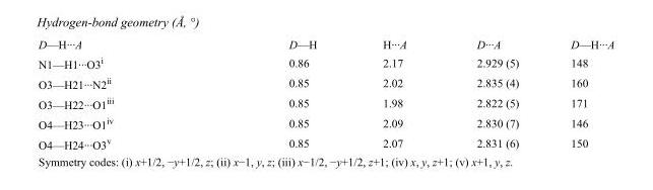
<table><tbody><tr><td>D—H···A</td><td>D—H</td><td>H···A</td><td>D···A</td><td>D—H···A</td></tr><tr><td>N1—H1···O3<sup>i</sup></td><td>0.86</td><td>2.17</td><td>2.929 (5)</td><td>148</td></tr><tr><td>O3—H21···N2<sup>ii</sup></td><td>0.85</td><td>2.02</td><td>2.835 (4)</td><td>160</td></tr><tr><td>O3—H22···O1<sup>iii</sup></td><td>0.85</td><td>1.98</td><td>2.822 (5)</td><td>171</td></tr><tr><td>O4—H23···O1<sup>iv</sup></td><td>0.85</td><td>2.09</td><td>2.830 (7)</td><td>146</td></tr><tr><td>O4—H24···O3<sup>v</sup></td><td>0.85</td><td>2.07</td><td>2.831 (6)</td><td>150</td></tr></tbody></table>